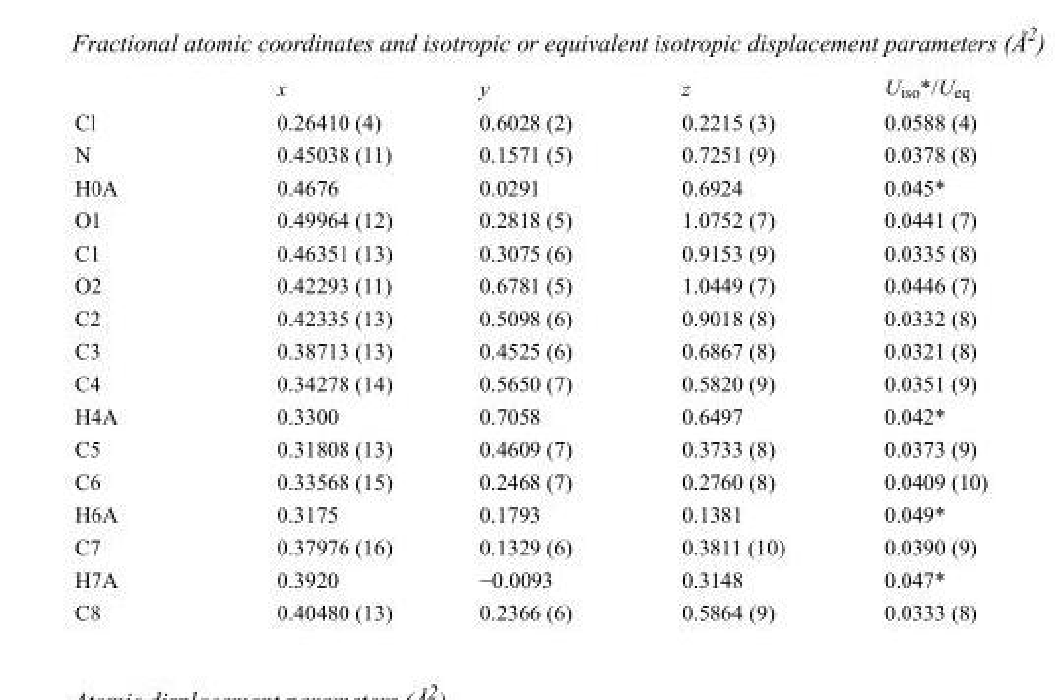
<table><thead><tr><td></td><td>x</td><td>y</td><td>z</td><td>U<sub>iso</sub>*/U<sub>eq</sub></td></tr></thead><tbody><tr><td>Cl</td><td>0.26410 (4)</td><td>0.6028 (2)</td><td>0.2215 (3)</td><td>0.0588 (4)</td></tr><tr><td>N</td><td>0.45038 (11)</td><td>0.1571 (5)</td><td>0.7251 (9)</td><td>0.0378 (8)</td></tr><tr><td>H0A</td><td>0.4676</td><td>0.0291</td><td>0.6924</td><td>0.045*</td></tr><tr><td>O1</td><td>0.49964 (12)</td><td>0.2818 (5)</td><td>1.0752 (7)</td><td>0.0441 (7)</td></tr><tr><td>C1</td><td>0.46351 (13)</td><td>0.3075 (6)</td><td>0.9153 (9)</td><td>0.0335 (8)</td></tr><tr><td>O2</td><td>0.42293 (11)</td><td>0.6781 (5)</td><td>1.0449 (7)</td><td>0.0446 (7)</td></tr><tr><td>C2</td><td>0.42335 (13)</td><td>0.5098 (6)</td><td>0.9018 (8)</td><td>0.0332 (8)</td></tr><tr><td>C3</td><td>0.38713 (13)</td><td>0.4525 (6)</td><td>0.6867 (8)</td><td>0.0321 (8)</td></tr><tr><td>C4</td><td>0.34278 (14)</td><td>0.5650 (7)</td><td>0.5820 (9)</td><td>0.0351 (9)</td></tr><tr><td>H4A</td><td>0.3300</td><td>0.7058</td><td>0.6497</td><td>0.042*</td></tr><tr><td>C5</td><td>0.31808 (13)</td><td>0.4609 (7)</td><td>0.3733 (8)</td><td>0.0373 (9)</td></tr><tr><td>C6</td><td>0.33568 (15)</td><td>0.2468 (7)</td><td>0.2760 (8)</td><td>0.0409 (10)</td></tr><tr><td>H6A</td><td>0.3175</td><td>0.1793</td><td>0.1381</td><td>0.049*</td></tr><tr><td>C7</td><td>0.37976 (16)</td><td>0.1329 (6)</td><td>0.3811 (10)</td><td>0.0390 (9)</td></tr><tr><td>H7A</td><td>0.3920</td><td>−0.0093</td><td>0.3148</td><td>0.047*</td></tr><tr><td>C8</td><td>0.40480 (13)</td><td>0.2366 (6)</td><td>0.5864 (9)</td><td>0.0333 (8)</td></tr></tbody></table>